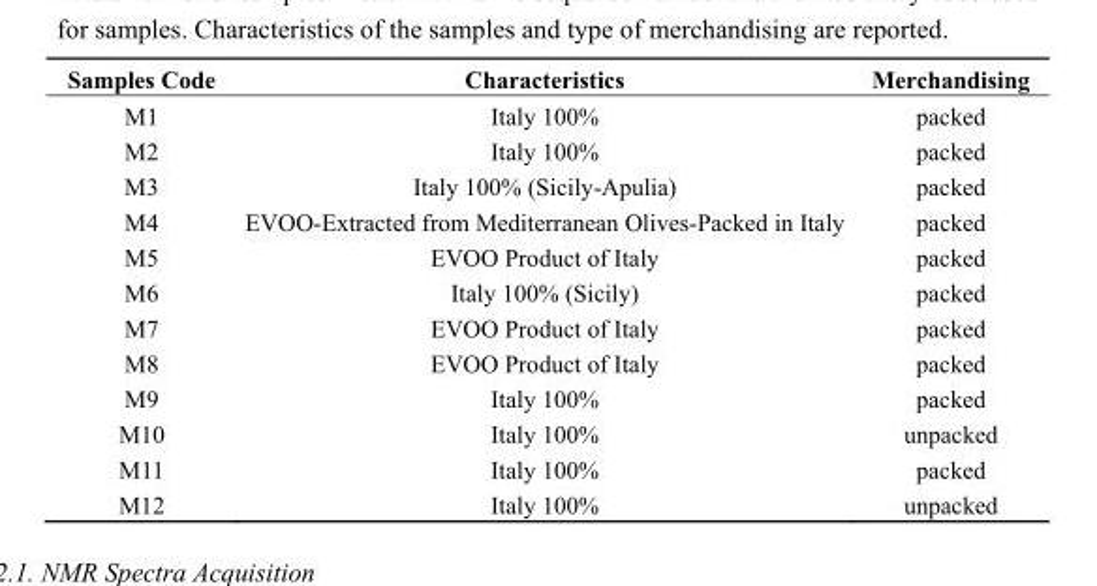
<table><thead><tr><td>Samples Code</td><td>Characteristics</td><td>Merchandising</td></tr></thead><tbody><tr><td>M1</td><td>Italy 100%</td><td>packed</td></tr><tr><td>M2</td><td>Italy 100%</td><td>packed</td></tr><tr><td>M3</td><td>Italy 100% (Sicily-Apulia)</td><td>packed</td></tr><tr><td>M4</td><td>EVOO-Extracted from Mediterranean Olives-Packed in Italy</td><td>packed</td></tr><tr><td>M5</td><td>EVOO Product of Italy</td><td>packed</td></tr><tr><td>M6</td><td>Italy 100% (Sicily)</td><td>packed</td></tr><tr><td>M7</td><td>EVOO Product of Italy</td><td>packed</td></tr><tr><td>M8</td><td>EVOO Product of Italy</td><td>packed</td></tr><tr><td>M9</td><td>Italy 100%</td><td>packed</td></tr><tr><td>M10</td><td>Italy 100%</td><td>unpacked</td></tr><tr><td>M11</td><td>Italy 100%</td><td>packed</td></tr><tr><td>M12</td><td>Italy 100%</td><td>unpacked</td></tr></tbody></table>